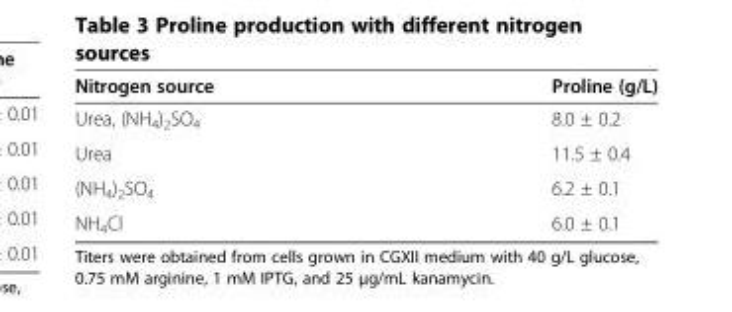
<table><thead><tr><td>Nitrogen source</td><td>Proline (g/L)</td></tr></thead><tbody><tr><td>Urea, (NH<sub>4</sub>)<sub>2</sub>SO<sub>4</sub></td><td>8.0 ± 0.2</td></tr><tr><td>Urea</td><td>11.5 ± 0.4</td></tr><tr><td>(NH<sub>4</sub>)<sub>2</sub>SO<sub>4</sub></td><td>6.2 ± 0.1</td></tr><tr><td>NH<sub>4</sub>Cl</td><td>6.0 ± 0.1</td></tr></tbody></table>